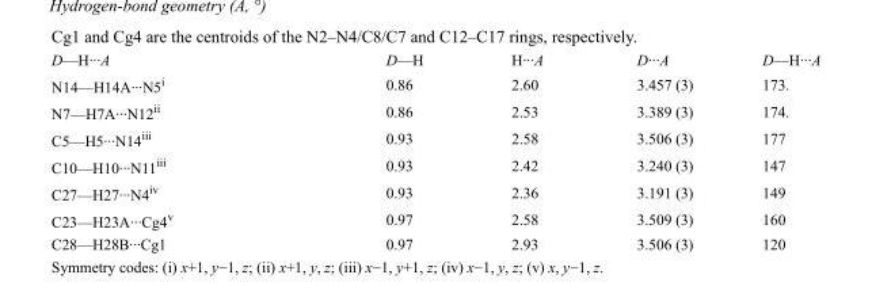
<table><tbody><tr><td>D—H···A</td><td>D—H</td><td>H···A</td><td>D···A</td><td>D—H···A</td></tr><tr><td>N14—H14A···N5<sup>i</sup></td><td>0.86</td><td>2.60</td><td>3.457 (3)</td><td>173.</td></tr><tr><td>N7—H7A···N12<sup>ii</sup></td><td>0.86</td><td>2.53</td><td>3.389 (3)</td><td>174.</td></tr><tr><td>C5—H5···N14<sup>iii</sup></td><td>0.93</td><td>2.58</td><td>3.506 (3)</td><td>177</td></tr><tr><td>C10—H10···N11<sup>iii</sup></td><td>0.93</td><td>2.42</td><td>3.240 (3)</td><td>147</td></tr><tr><td>C27—H27···N4<sup>iv</sup></td><td>0.93</td><td>2.36</td><td>3.191 (3)</td><td>149</td></tr><tr><td>C23—H23A···Cg4<sup>v</sup></td><td>0.97</td><td>2.58</td><td>3.509 (3)</td><td>160</td></tr><tr><td>C28—H28B···Cg1</td><td>0.97</td><td>2.93</td><td>3.506 (3)</td><td>120</td></tr></tbody></table>